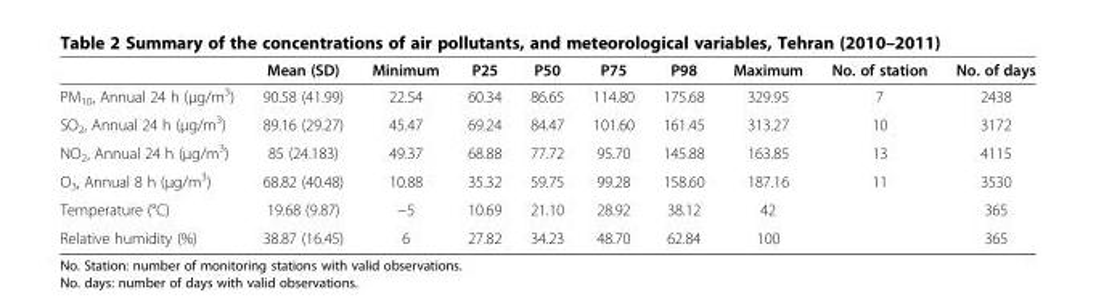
<table><thead><tr><td></td><td>Mean (SD)</td><td>Minimum</td><td>P25</td><td>P50</td><td>P75</td><td>P98</td><td>Maximum</td><td>No. of station</td><td>No. of days</td></tr></thead><tbody><tr><td>PM<sub>10</sub>, Annual 24 h (μg/m<sup>3</sup>)</td><td>90.58 (41.99)</td><td>22.54</td><td>60.34</td><td>86.65</td><td>114.80</td><td>175.68</td><td>329.95</td><td>7</td><td>2438</td></tr><tr><td>SO<sub>2</sub>, Annual 24 h (μg/m<sup>3</sup>)</td><td>89.16 (29.27)</td><td>45.47</td><td>69.24</td><td>84.47</td><td>101.60</td><td>161.45</td><td>313.27</td><td>10</td><td>3172</td></tr><tr><td>NO<sub>2</sub>, Annual 24 h (μg/m<sup>3</sup>)</td><td>85 (24.183)</td><td>49.37</td><td>68.88</td><td>77.72</td><td>95.70</td><td>145.88</td><td>163.85</td><td>13</td><td>4115</td></tr><tr><td>O<sub>3</sub>, Annual 8 h (μg/m<sup>3</sup>)</td><td>68.82 (40.48)</td><td>10.88</td><td>35.32</td><td>59.75</td><td>99.28</td><td>158.60</td><td>187.16</td><td>11</td><td>3530</td></tr><tr><td>Temperature (°C)</td><td>19.68 (9.87)</td><td>−5</td><td>10.69</td><td>21.10</td><td>28.92</td><td>38.12</td><td>42</td><td></td><td>365</td></tr><tr><td>Relative humidity (%)</td><td>38.87 (16.45)</td><td>6</td><td>27.82</td><td>34.23</td><td>48.70</td><td>62.84</td><td>100</td><td></td><td>365</td></tr></tbody></table>